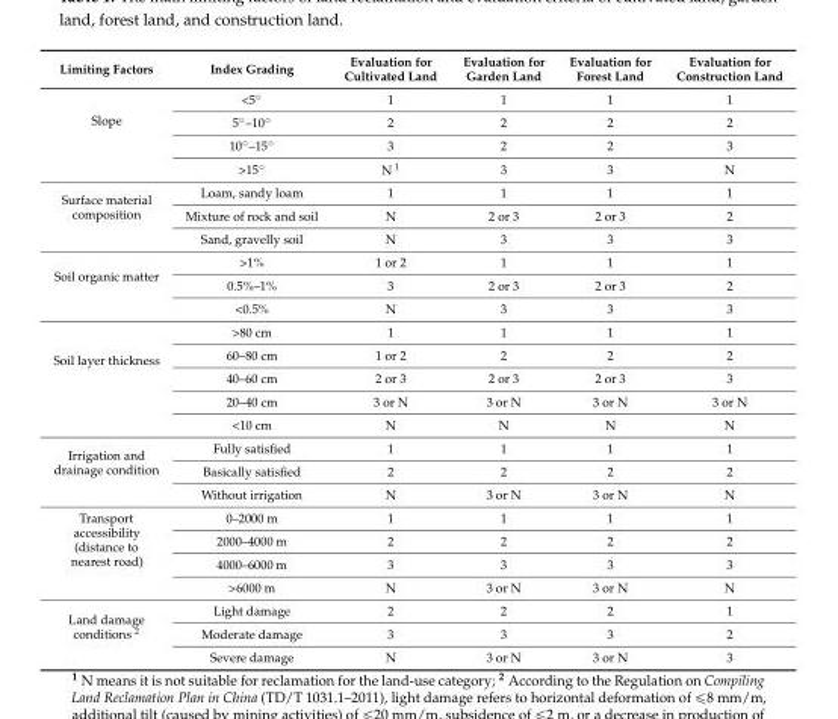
<table><thead><tr><td>Limiting Factors</td><td>Index Grading</td><td>Evaluation for Cultivated Land</td><td>Evaluation for Garden Land</td><td>Evaluation for Forest Land</td><td>Evaluation for Construction Land</td></tr></thead><tbody><tr><td rowspan="4">Slope</td><td>&lt;5˝</td><td>1</td><td>1</td><td>1</td><td>1</td></tr><tr><td>5˝–10˝</td><td>2</td><td>2</td><td>2</td><td>2</td></tr><tr><td>10˝–15˝</td><td>3</td><td>2</td><td>2</td><td>3</td></tr><tr><td>&gt;15˝</td><td>N <sup>1</sup></td><td>3</td><td>3</td><td>N</td></tr><tr><td rowspan="3">Surface material composition</td><td>Loam, sandy loam</td><td>1</td><td>1</td><td>1</td><td>1</td></tr><tr><td>Mixture of rock and soil</td><td>N</td><td>2 or 3</td><td>2 or 3</td><td>2</td></tr><tr><td>Sand, gravelly soil</td><td>N</td><td>3</td><td>3</td><td>3</td></tr><tr><td rowspan="3">Soil organic matter</td><td>&gt;1%</td><td>1 or 2</td><td>1</td><td>1</td><td>1</td></tr><tr><td>0.5%–1%</td><td>3</td><td>2 or 3</td><td>2 or 3</td><td>2</td></tr><tr><td>&lt;0.5%</td><td>N</td><td>3</td><td>3</td><td>3</td></tr><tr><td rowspan="5">Soil layer thickness</td><td>&gt;80 cm</td><td>1</td><td>1</td><td>1</td><td>1</td></tr><tr><td>60–80 cm</td><td>1 or 2</td><td>2</td><td>2</td><td>2</td></tr><tr><td>40–60 cm</td><td>2 or 3</td><td>2 or 3</td><td>2 or 3</td><td>3</td></tr><tr><td>20–40 cm</td><td>3 or N</td><td>3 or N</td><td>3 or N</td><td>3 or N</td></tr><tr><td>&lt;10 cm</td><td>N</td><td>N</td><td>N</td><td>N</td></tr><tr><td rowspan="3">Irrigation and drainage condition</td><td>Fully satisfied</td><td>1</td><td>1</td><td>1</td><td>1</td></tr><tr><td>Basically satisfied</td><td>2</td><td>2</td><td>2</td><td>2</td></tr><tr><td>Without irrigation</td><td>N</td><td>3 or N</td><td>3 or N</td><td>N</td></tr><tr><td rowspan="4">Transport accessibility (distance to nearest road)</td><td>0–2000 m</td><td>1</td><td>1</td><td>1</td><td>1</td></tr><tr><td>2000–4000 m</td><td>2</td><td>2</td><td>2</td><td>2</td></tr><tr><td>4000–6000 m</td><td>3</td><td>3</td><td>3</td><td>3</td></tr><tr><td>&gt;6000 m</td><td>N</td><td>3 or N</td><td>3 or N</td><td>N</td></tr><tr><td rowspan="3">Land damage conditions <sup>2</sup></td><td>Light damage</td><td>2</td><td>2</td><td>2</td><td>1</td></tr><tr><td>Moderate damage</td><td>3</td><td>3</td><td>3</td><td>2</td></tr><tr><td>Severe damage</td><td>N</td><td>3 or N</td><td>3 or N</td><td>3</td></tr></tbody></table>